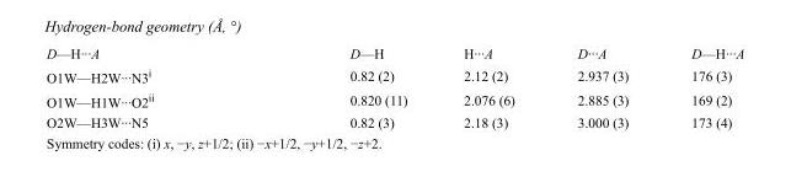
<table><tbody><tr><td>D—H···A</td><td>D—H</td><td>H···A</td><td>D···A</td><td>D—H···A</td></tr><tr><td>O1W—H2W···N3<sup>i</sup></td><td>0.82 (2)</td><td>2.12 (2)</td><td>2.937 (3)</td><td>176 (3)</td></tr><tr><td>O1W—H1W···O2<sup>ii</sup></td><td>0.820 (11)</td><td>2.076 (6)</td><td>2.885 (3)</td><td>169 (2)</td></tr><tr><td>O2W—H3W···N5</td><td>0.82 (3)</td><td>2.18 (3)</td><td>3.000 (3)</td><td>173 (4)</td></tr></tbody></table>